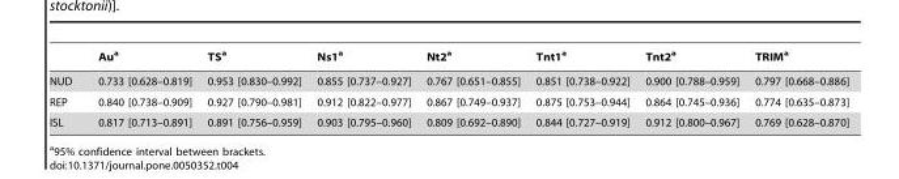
<table><thead><tr><td></td><td>Au<sup>a</sup></td><td>TS<sup>a</sup></td><td>Ns1<sup>a</sup></td><td>Nt2<sup>a</sup></td><td>Tnt1<sup>a</sup></td><td>Tnt2<sup>a</sup></td><td>TRIM<sup>a</sup></td></tr></thead><tbody><tr><td>NUD</td><td>0.733 [0.628–0.819]</td><td>0.953 [0.830–0.992]</td><td>0.855 [0.737–0.927]</td><td>0.767 [0.651–0.855]</td><td>0.851 [0.738–0.922]</td><td>0.900 [0.788–0.959]</td><td>0.797 [0.668–0.886]</td></tr><tr><td>REP</td><td>0.840 [0.738–0.909]</td><td>0.927 [0.790–0.981]</td><td>0.912 [0.822–0.977]</td><td>0.867 [0.749–0.937]</td><td>0.875 [0.753–0.944]</td><td>0.864 [0.745–0.936]</td><td>0.774 [0.635–0.873]</td></tr><tr><td>ISL</td><td>0.817 [0.713–0.891]</td><td>0.891 [0.756–0.959]</td><td>0.903 [0.795–0.960]</td><td>0.809 [0.692–0.890]</td><td>0.844 [0.727–0.919]</td><td>0.912 [0.800–0.967]</td><td>0.769 [0.628–0.870]</td></tr></tbody></table>